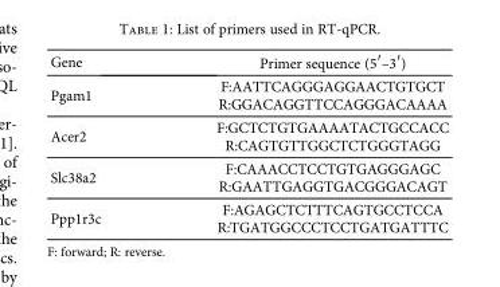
<table><thead><tr><td>Gene</td><td>Primer sequence (5′–3′)</td></tr></thead><tbody><tr><td>Pgam1</td><td>F:AATTCAGGGAGGAACTGTGCT R:GGACAGGTTCCAGGGACAAAA</td></tr><tr><td>Acer2</td><td>F:GCTCTGTGAAAATACTGCCACC R:CAGTGTTGGCTCTGGGTAGG</td></tr><tr><td>Slc38a2</td><td>F:CAAACCTCCTGTGAGGGAGC R:GAATTGAGGTGACGGGACAGT</td></tr><tr><td>Ppp1r3c</td><td>F:AGAGCTCTTTCAGTGCCTCCA R:TGATGGCCCTCCTGATGATTTC</td></tr></tbody></table>